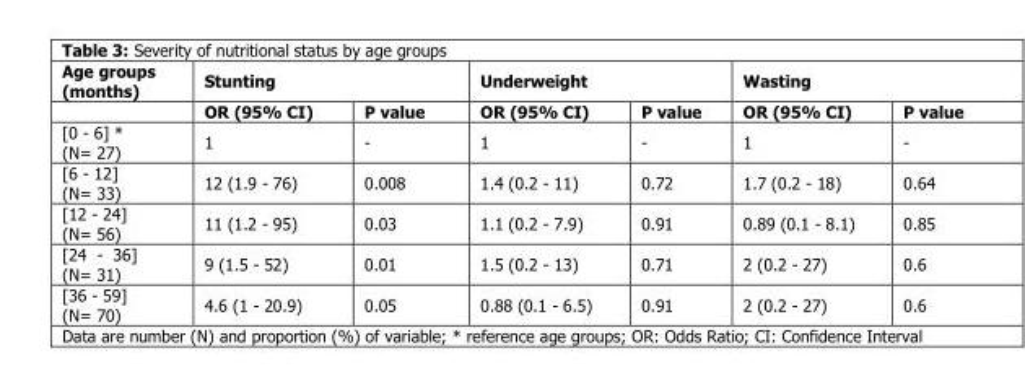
<table><thead><tr><td rowspan="2">Age groups (months)</td><td colspan="2">Stunting</td><td colspan="2">Underweight</td><td colspan="2">Wasting</td></tr><tr><td>OR (95% CI)</td><td>P value</td><td>OR (95% CI)</td><td>P value</td><td>OR (95% CI)</td><td>P value</td></tr></thead><tbody><tr><td>[0 - 6] * (N= 27)</td><td>1</td><td>-</td><td>1</td><td>-</td><td>1</td><td>-</td></tr><tr><td>[6 - 12] (N= 33)</td><td>12 (1.9 - 76)</td><td>0.008</td><td>1.4 (0.2 - 11)</td><td>0.72</td><td>1.7 (0.2 - 18)</td><td>0.64</td></tr><tr><td>[12 - 24] (N= 56)</td><td>11 (1.2 - 95)</td><td>0.03</td><td>1.1 (0.2 - 7.9)</td><td>0.91</td><td>0.89 (0.1 - 8.1)</td><td>0.85</td></tr><tr><td>[24 - 36] (N= 31)</td><td>9 (1.5 - 52)</td><td>0.01</td><td>1.5 (0.2 - 13)</td><td>0.71</td><td>2 (0.2 - 27)</td><td>0.6</td></tr><tr><td>[36 - 59] (N= 70)</td><td>4.6 (1 - 20.9)</td><td>0.05</td><td>0.88 (0.1 - 6.5)</td><td>0.91</td><td>2 (0.2 - 27)</td><td>0.6</td></tr></tbody></table>